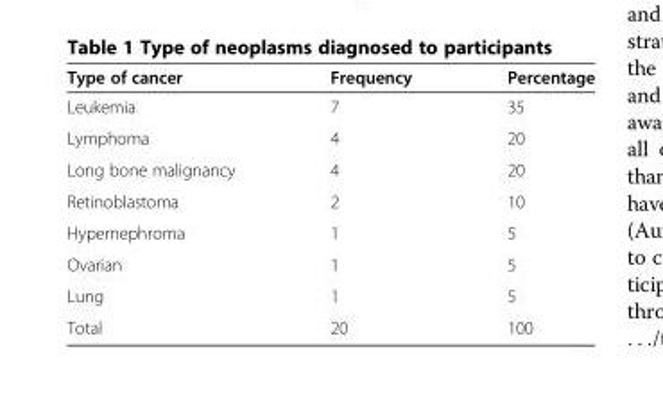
<table><thead><tr><td>Type of cancer</td><td>Frequency</td><td>Percentage</td></tr></thead><tbody><tr><td>Leukemia</td><td>7</td><td>35</td></tr><tr><td>Lymphoma</td><td>4</td><td>20</td></tr><tr><td>Long bone malignancy</td><td>4</td><td>20</td></tr><tr><td>Retinoblastoma</td><td>2</td><td>10</td></tr><tr><td>Hypernephroma</td><td>1</td><td>5</td></tr><tr><td>Ovarian</td><td>1</td><td>5</td></tr><tr><td>Lung</td><td>1</td><td>5</td></tr><tr><td>Total</td><td>20</td><td>100</td></tr></tbody></table>